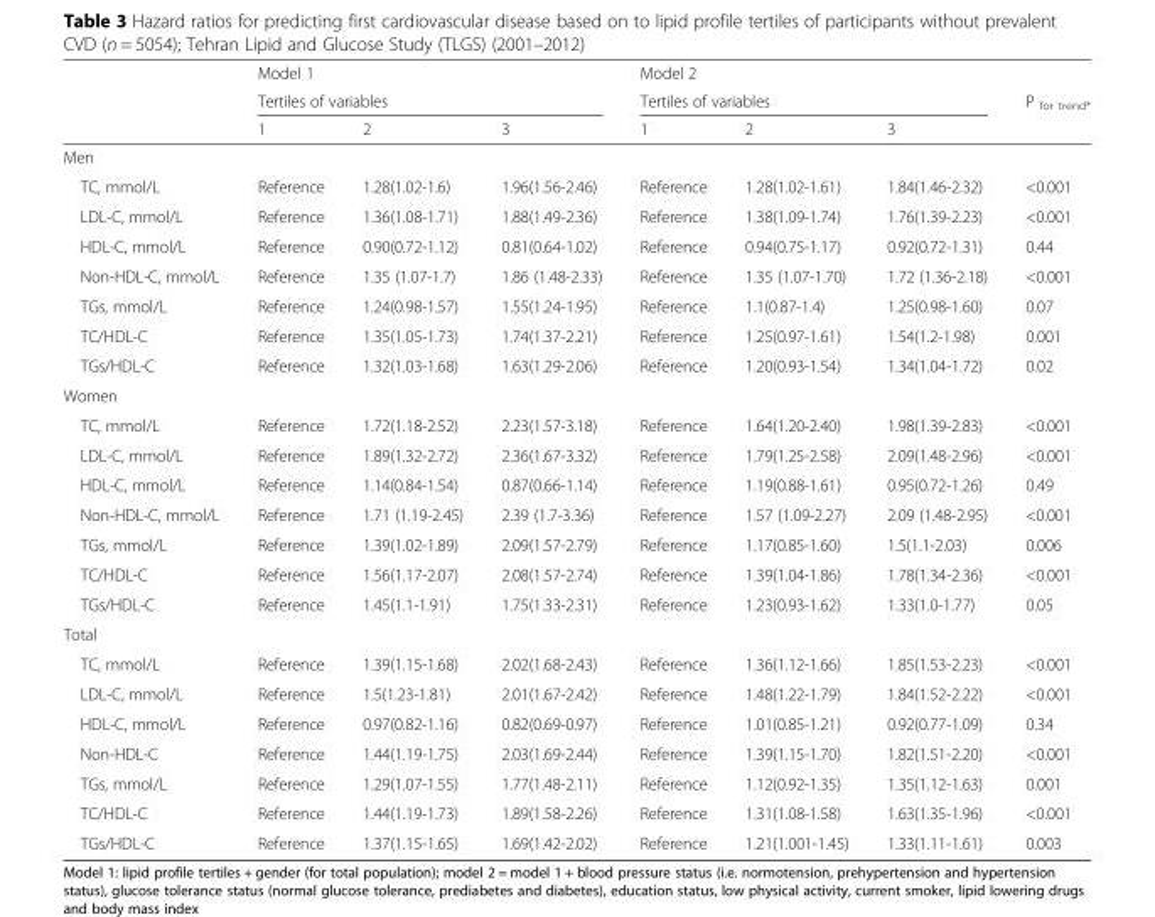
<table><thead><tr><td rowspan="3"></td><td>Model 1</td><td></td><td></td><td>Model 2</td><td></td><td></td><td rowspan="3">P <sub>for trend*</sub></td></tr><tr><td colspan="3">Tertiles of variables</td><td colspan="3">Tertiles of variables</td></tr><tr><td>1</td><td>2</td><td>3</td><td>1</td><td>2</td><td>3</td></tr></thead><tbody><tr><td colspan="8">Men</td></tr><tr><td>TC, mmol/L</td><td>Reference</td><td>1.28(1.02-1.6)</td><td>1.96(1.56-2.46)</td><td>Reference</td><td>1.28(1.02-1.61)</td><td>1.84(1.46-2.32)</td><td>&lt;0.001</td></tr><tr><td>LDL-C, mmol/L</td><td>Reference</td><td>1.36(1.08-1.71)</td><td>1.88(1.49-2.36)</td><td>Reference</td><td>1.38(1.09-1.74)</td><td>1.76(1.39-2.23)</td><td>&lt;0.001</td></tr><tr><td>HDL-C, mmol/L</td><td>Reference</td><td>0.90(0.72-1.12)</td><td>0.81(0.64-1.02)</td><td>Reference</td><td>0.94(0.75-1.17)</td><td>0.92(0.72-1.31)</td><td>0.44</td></tr><tr><td>Non-HDL-C, mmol/L</td><td>Reference</td><td>1.35 (1.07-1.7)</td><td>1.86 (1.48-2.33)</td><td>Reference</td><td>1.35 (1.07-1.70)</td><td>1.72 (1.36-2.18)</td><td>&lt;0.001</td></tr><tr><td>TGs, mmol/L</td><td>Reference</td><td>1.24(0.98-1.57)</td><td>1.55(1.24-1.95)</td><td>Reference</td><td>1.1(0.87-1.4)</td><td>1.25(0.98-1.60)</td><td>0.07</td></tr><tr><td>TC/HDL-C</td><td>Reference</td><td>1.35(1.05-1.73)</td><td>1.74(1.37-2.21)</td><td>Reference</td><td>1.25(0.97-1.61)</td><td>1.54(1.2-1.98)</td><td>0.001</td></tr><tr><td>TGs/HDL-C</td><td>Reference</td><td>1.32(1.03-1.68)</td><td>1.63(1.29-2.06)</td><td>Reference</td><td>1.20(0.93-1.54)</td><td>1.34(1.04-1.72)</td><td>0.02</td></tr><tr><td colspan="8">Women</td></tr><tr><td>TC, mmol/L</td><td>Reference</td><td>1.72(1.18-2.52)</td><td>2.23(1.57-3.18)</td><td>Reference</td><td>1.64(1.20-2.40)</td><td>1.98(1.39-2.83)</td><td>&lt;0.001</td></tr><tr><td>LDL-C, mmol/L</td><td>Reference</td><td>1.89(1.32-2.72)</td><td>2.36(1.67-3.32)</td><td>Reference</td><td>1.79(1.25-2.58)</td><td>2.09(1.48-2.96)</td><td>&lt;0.001</td></tr><tr><td>HDL-C, mmol/L</td><td>Reference</td><td>1.14(0.84-1.54)</td><td>0.87(0.66-1.14)</td><td>Reference</td><td>1.19(0.88-1.61)</td><td>0.95(0.72-1.26)</td><td>0.49</td></tr><tr><td>Non-HDL-C, mmol/L</td><td>Reference</td><td>1.71 (1.19-2.45)</td><td>2.39 (1.7-3.36)</td><td>Reference</td><td>1.57 (1.09-2.27)</td><td>2.09 (1.48-2.95)</td><td>&lt;0.001</td></tr><tr><td>TGs, mmol/L</td><td>Reference</td><td>1.39(1.02-1.89)</td><td>2.09(1.57-2.79)</td><td>Reference</td><td>1.17(0.85-1.60)</td><td>1.5(1.1-2.03)</td><td>0.006</td></tr><tr><td>TC/HDL-C</td><td>Reference</td><td>1.56(1.17-2.07)</td><td>2.08(1.57-2.74)</td><td>Reference</td><td>1.39(1.04-1.86)</td><td>1.78(1.34-2.36)</td><td>&lt;0.001</td></tr><tr><td>TGs/HDL-C</td><td>Reference</td><td>1.45(1.1-1.91)</td><td>1.75(1.33-2.31)</td><td>Reference</td><td>1.23(0.93-1.62)</td><td>1.33(1.0-1.77)</td><td>0.05</td></tr><tr><td colspan="8">Total</td></tr><tr><td>TC, mmol/L</td><td>Reference</td><td>1.39(1.15-1.68)</td><td>2.02(1.68-2.43)</td><td>Reference</td><td>1.36(1.12-1.66)</td><td>1.85(1.53-2.23)</td><td>&lt;0.001</td></tr><tr><td>LDL-C, mmol/L</td><td>Reference</td><td>1.5(1.23-1.81)</td><td>2.01(1.67-2.42)</td><td>Reference</td><td>1.48(1.22-1.79)</td><td>1.84(1.52-2.22)</td><td>&lt;0.001</td></tr><tr><td>HDL-C, mmol/L</td><td>Reference</td><td>0.97(0.82-1.16)</td><td>0.82(0.69-0.97)</td><td>Reference</td><td>1.01(0.85-1.21)</td><td>0.92(0.77-1.09)</td><td>0.34</td></tr><tr><td>Non-HDL-C</td><td>Reference</td><td>1.44(1.19-1.75)</td><td>2.03(1.69-2.44)</td><td>Reference</td><td>1.39(1.15-1.70)</td><td>1.82(1.51-2.20)</td><td>&lt;0.001</td></tr><tr><td>TGs, mmol/L</td><td>Reference</td><td>1.29(1.07-1.55)</td><td>1.77(1.48-2.11)</td><td>Reference</td><td>1.12(0.92-1.35)</td><td>1.35(1.12-1.63)</td><td>0.001</td></tr><tr><td>TC/HDL-C</td><td>Reference</td><td>1.44(1.19-1.73)</td><td>1.89(1.58-2.26)</td><td>Reference</td><td>1.31(1.08-1.58)</td><td>1.63(1.35-1.96)</td><td>&lt;0.001</td></tr><tr><td>TGs/HDL-C</td><td>Reference</td><td>1.37(1.15-1.65)</td><td>1.69(1.42-2.02)</td><td>Reference</td><td>1.21(1.001-1.45)</td><td>1.33(1.11-1.61)</td><td>0.003</td></tr></tbody></table>